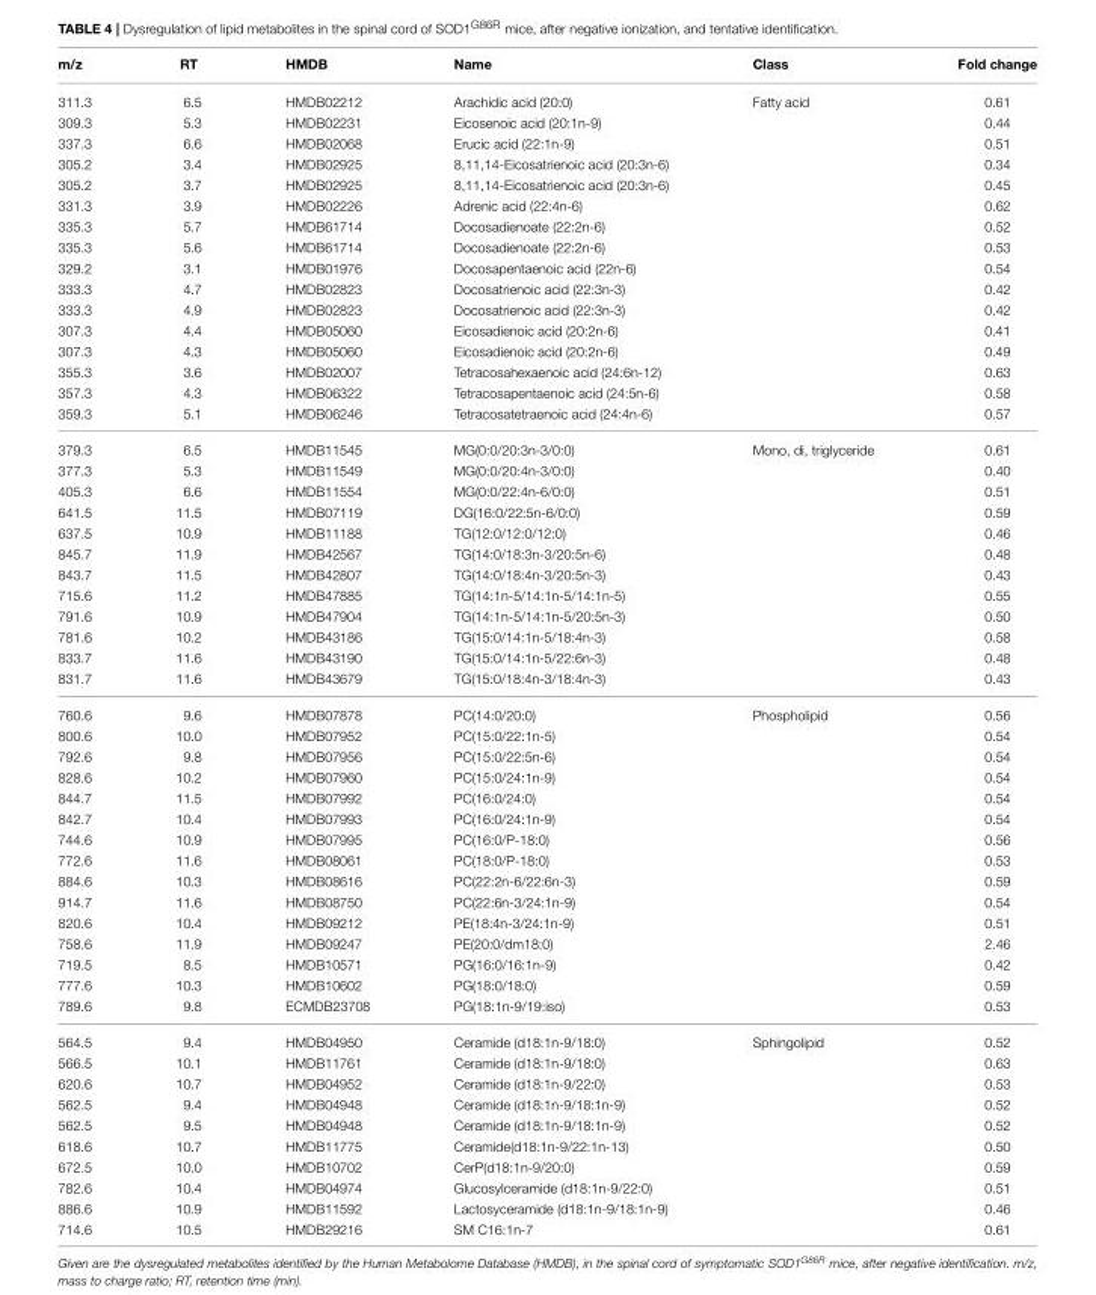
<table><thead><tr><td>m/z</td><td>RT</td><td>HMDB</td><td>Name</td><td>Class</td><td>Fold change</td></tr></thead><tbody><tr><td>311.3</td><td>6.5</td><td>HMDB02212</td><td>Arachidic acid (20:0)</td><td>Fatty acid</td><td>0.61</td></tr><tr><td>309.3</td><td>5.3</td><td>HMDB02231</td><td>Eicosenoic acid (20:1n-9)</td><td></td><td>0.44</td></tr><tr><td>337.3</td><td>6.6</td><td>HMDB02068</td><td>Erucic acid (22:1n-9)</td><td></td><td>0.51</td></tr><tr><td>305.2</td><td>3.4</td><td>HMDB02925</td><td>8,11,14-Eicosatrienoic acid (20:3n-6)</td><td></td><td>0.34</td></tr><tr><td>305.2</td><td>3.7</td><td>HMDB02925</td><td>8,11,14-Eicosatrienoic acid (20:3n-6)</td><td></td><td>0.45</td></tr><tr><td>331.3</td><td>3.9</td><td>HMDB02226</td><td>Adrenic acid (22:4n-6)</td><td></td><td>0.62</td></tr><tr><td>335.3</td><td>5.7</td><td>HMDB61714</td><td>Docosadienoate (22:2n-6)</td><td></td><td>0.52</td></tr><tr><td>335.3</td><td>5.6</td><td>HMDB61714</td><td>Docosadienoate (22:2n-6)</td><td></td><td>0.53</td></tr><tr><td>329.2</td><td>3.1</td><td>HMDB01976</td><td>Docosapentaenoic acid (22n-6)</td><td></td><td>0.54</td></tr><tr><td>333.3</td><td>4.7</td><td>HMDB02823</td><td>Docosatrienoic acid (22:3n-3)</td><td></td><td>0.42</td></tr><tr><td>333.3</td><td>4.9</td><td>HMDB02823</td><td>Docosatrienoic acid (22:3n-3)</td><td></td><td>0.42</td></tr><tr><td>307.3</td><td>4.4</td><td>HMDB05060</td><td>Eicosadienoic acid (20:2n-6)</td><td></td><td>0.41</td></tr><tr><td>307.3</td><td>4.3</td><td>HMDB05060</td><td>Eicosadienoic acid (20:2n-6)</td><td></td><td>0.49</td></tr><tr><td>355.3</td><td>3.6</td><td>HMDB02007</td><td>Tetracosahexaenoic acid (24:6n-12)</td><td></td><td>0.63</td></tr><tr><td>357.3</td><td>4.3</td><td>HMDB06322</td><td>Tetracosapentaenoic acid (24:5n-6)</td><td></td><td>0.58</td></tr><tr><td>359.3</td><td>5.1</td><td>HMDB06246</td><td>Tetracosatetraenoic acid (24:4n-6)</td><td></td><td>0.57</td></tr><tr><td>379.3</td><td>6.5</td><td>HMDB11545</td><td>MG(0:0/20:3n-3/0:0)</td><td>Mono, di, triglyceride</td><td>0.61</td></tr><tr><td>377.3</td><td>5.3</td><td>HMDB11549</td><td>MG(0:0/20:4n-3/0:0)</td><td></td><td>0.40</td></tr><tr><td>405.3</td><td>6.6</td><td>HMDB11554</td><td>MG(0:0/22:4n-6/0:0)</td><td></td><td>0.51</td></tr><tr><td>641.5</td><td>11.5</td><td>HMDB07119</td><td>DG(16:0/22:5n-6/0:0)</td><td></td><td>0.59</td></tr><tr><td>637.5</td><td>10.9</td><td>HMDB11188</td><td>TG(12:0/12:0/12:0)</td><td></td><td>0.46</td></tr><tr><td>845.7</td><td>11.9</td><td>HMDB42567</td><td>TG(14:0/18:3n-3/20:5n-6)</td><td></td><td>0.48</td></tr><tr><td>843.7</td><td>11.5</td><td>HMDB42807</td><td>TG(14:0/18:4n-3/20:5n-3)</td><td></td><td>0.43</td></tr><tr><td>715.6</td><td>11.2</td><td>HMDB47885</td><td>TG(14:1n-5/14:1n-5/14:1n-5)</td><td></td><td>0.55</td></tr><tr><td>791.6</td><td>10.9</td><td>HMDB47904</td><td>TG(14:1n-5/14:1n-5/20:5n-3)</td><td></td><td>0.50</td></tr><tr><td>781.6</td><td>10.2</td><td>HMDB43186</td><td>TG(15:0/14:1n-5/18:4n-3)</td><td></td><td>0.58</td></tr><tr><td>833.7</td><td>11.6</td><td>HMDB43190</td><td>TG(15:0/14:1n-5/22:6n-3)</td><td></td><td>0.48</td></tr><tr><td>831.7</td><td>11.6</td><td>HMDB43679</td><td>TG(15:0/18:4n-3/18:4n-3)</td><td></td><td>0.43</td></tr><tr><td>760.6</td><td>9.6</td><td>HMDB07878</td><td>PC(14:0/20:0)</td><td>Phospholipid</td><td>0.56</td></tr><tr><td>800.6</td><td>10.0</td><td>HMDB07952</td><td>PC(15:0/22:1n-5)</td><td></td><td>0.54</td></tr><tr><td>792.6</td><td>9.8</td><td>HMDB07956</td><td>PC(15:0/22:5n-6)</td><td></td><td>0.54</td></tr><tr><td>828.6</td><td>10.2</td><td>HMDB07960</td><td>PC(15:0/24:1n-9)</td><td></td><td>0.54</td></tr><tr><td>844.7</td><td>11.5</td><td>HMDB07992</td><td>PC(16:0/24:0)</td><td></td><td>0.54</td></tr><tr><td>842.7</td><td>10.4</td><td>HMDB07993</td><td>PC(16:0/24:1n-9)</td><td></td><td>0.54</td></tr><tr><td>744.6</td><td>10.9</td><td>HMDB07995</td><td>PC(16:0/P-18:0)</td><td></td><td>0.56</td></tr><tr><td>772.6</td><td>11.6</td><td>HMDB08061</td><td>PC(18:0/P-18:0)</td><td></td><td>0.53</td></tr><tr><td>884.6</td><td>10.3</td><td>HMDB08616</td><td>PC(22:2n-6/22:6n-3)</td><td></td><td>0.59</td></tr><tr><td>914.7</td><td>11.6</td><td>HMDB08750</td><td>PC(22:6n-3/24:1n-9)</td><td></td><td>0.54</td></tr><tr><td>820.6</td><td>10.4</td><td>HMDB09212</td><td>PE(18:4n-3/24:1n-9)</td><td></td><td>0.51</td></tr><tr><td>758.6</td><td>11.9</td><td>HMDB09247</td><td>PE(20:0/dm18:0)</td><td></td><td>2.46</td></tr><tr><td>719.5</td><td>8.5</td><td>HMDB10571</td><td>PG(16:0/16:1n-9)</td><td></td><td>0.42</td></tr><tr><td>777.6</td><td>10.3</td><td>HMDB10602</td><td>PG(18:0/18:0)</td><td></td><td>0.59</td></tr><tr><td>789.6</td><td>9.8</td><td>ECMDB23708</td><td>PG(18:1n-9/19:iso)</td><td></td><td>0.53</td></tr><tr><td>564.5</td><td>9.4</td><td>HMDB04950</td><td>Ceramide (d18:1n-9/18:0)</td><td>Sphingolipid</td><td>0.52</td></tr><tr><td>566.5</td><td>10.1</td><td>HMDB11761</td><td>Ceramide (d18:1n-9/18:0)</td><td></td><td>0.63</td></tr><tr><td>620.6</td><td>10.7</td><td>HMDB04952</td><td>Ceramide (d18:1n-9/22:0)</td><td></td><td>0.53</td></tr><tr><td>562.5</td><td>9.4</td><td>HMDB04948</td><td>Ceramide (d18:1n-9/18:1n-9)</td><td></td><td>0.52</td></tr><tr><td>562.5</td><td>9.5</td><td>HMDB04948</td><td>Ceramide (d18:1n-9/18:1n-9)</td><td></td><td>0.52</td></tr><tr><td>618.6</td><td>10.7</td><td>HMDB11775</td><td>Ceramide(d18:1n-9/22:1n-13)</td><td></td><td>0.50</td></tr><tr><td>672.5</td><td>10.0</td><td>HMDB10702</td><td>CerP(d18:1n-9/20:0)</td><td></td><td>0.59</td></tr><tr><td>782.6</td><td>10.4</td><td>HMDB04974</td><td>Glucosylceramide (d18:1n-9/22:0)</td><td></td><td>0.51</td></tr><tr><td>886.6</td><td>10.9</td><td>HMDB11592</td><td>Lactosyceramide (d18:1n-9/18:1n-9)</td><td></td><td>0.46</td></tr><tr><td>714.6</td><td>10.5</td><td>HMDB29216</td><td>SM C16:1n-7</td><td></td><td>0.61</td></tr></tbody></table>